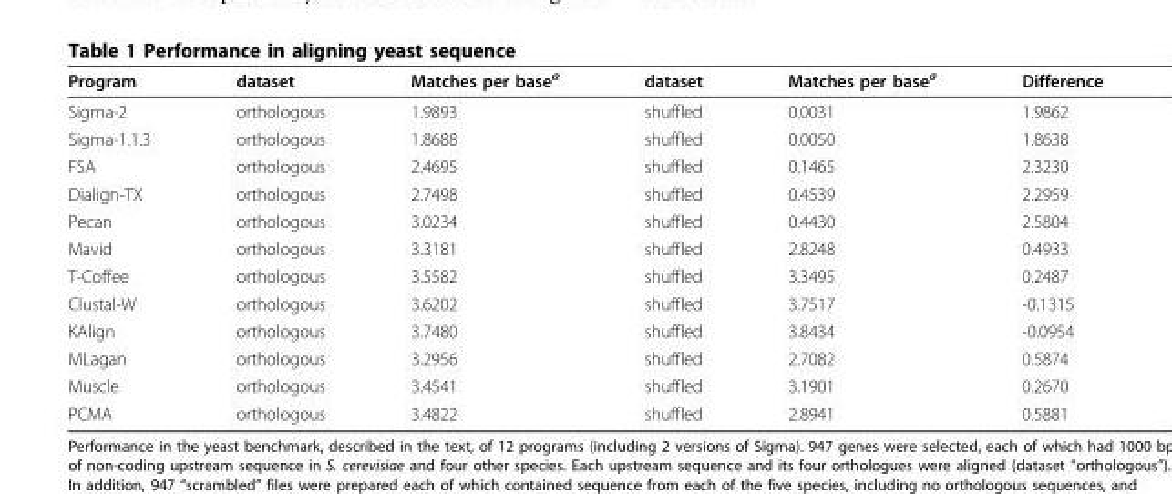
<table><thead><tr><td>Program</td><td>dataset</td><td>Matches per base<sup>a</sup></td><td>dataset</td><td>Matches per base<sup>a</sup></td><td>Difference</td></tr></thead><tbody><tr><td>Sigma-2</td><td>orthologous</td><td>1.9893</td><td>shuffled</td><td>0.0031</td><td>1.9862</td></tr><tr><td>Sigma-1.1.3</td><td>orthologous</td><td>1.8688</td><td>shuffled</td><td>0.0050</td><td>1.8638</td></tr><tr><td>FSA</td><td>orthologous</td><td>2.4695</td><td>shuffled</td><td>0.1465</td><td>2.3230</td></tr><tr><td>Dialign-TX</td><td>orthologous</td><td>2.7498</td><td>shuffled</td><td>0.4539</td><td>2.2959</td></tr><tr><td>Pecan</td><td>orthologous</td><td>3.0234</td><td>shuffled</td><td>0.4430</td><td>2.5804</td></tr><tr><td>Mavid</td><td>orthologous</td><td>3.3181</td><td>shuffled</td><td>2.8248</td><td>0.4933</td></tr><tr><td>T-Coffee</td><td>orthologous</td><td>3.5582</td><td>shuffled</td><td>3.3495</td><td>0.2487</td></tr><tr><td>Clustal-W</td><td>orthologous</td><td>3.6202</td><td>shuffled</td><td>3.7517</td><td>-0.1315</td></tr><tr><td>KAlign</td><td>orthologous</td><td>3.7480</td><td>shuffled</td><td>3.8434</td><td>-0.0954</td></tr><tr><td>MLagan</td><td>orthologous</td><td>3.2956</td><td>shuffled</td><td>2.7082</td><td>0.5874</td></tr><tr><td>Muscle</td><td>orthologous</td><td>3.4541</td><td>shuffled</td><td>3.1901</td><td>0.2670</td></tr><tr><td>PCMA</td><td>orthologous</td><td>3.4822</td><td>shuffled</td><td>2.8941</td><td>0.5881</td></tr></tbody></table>